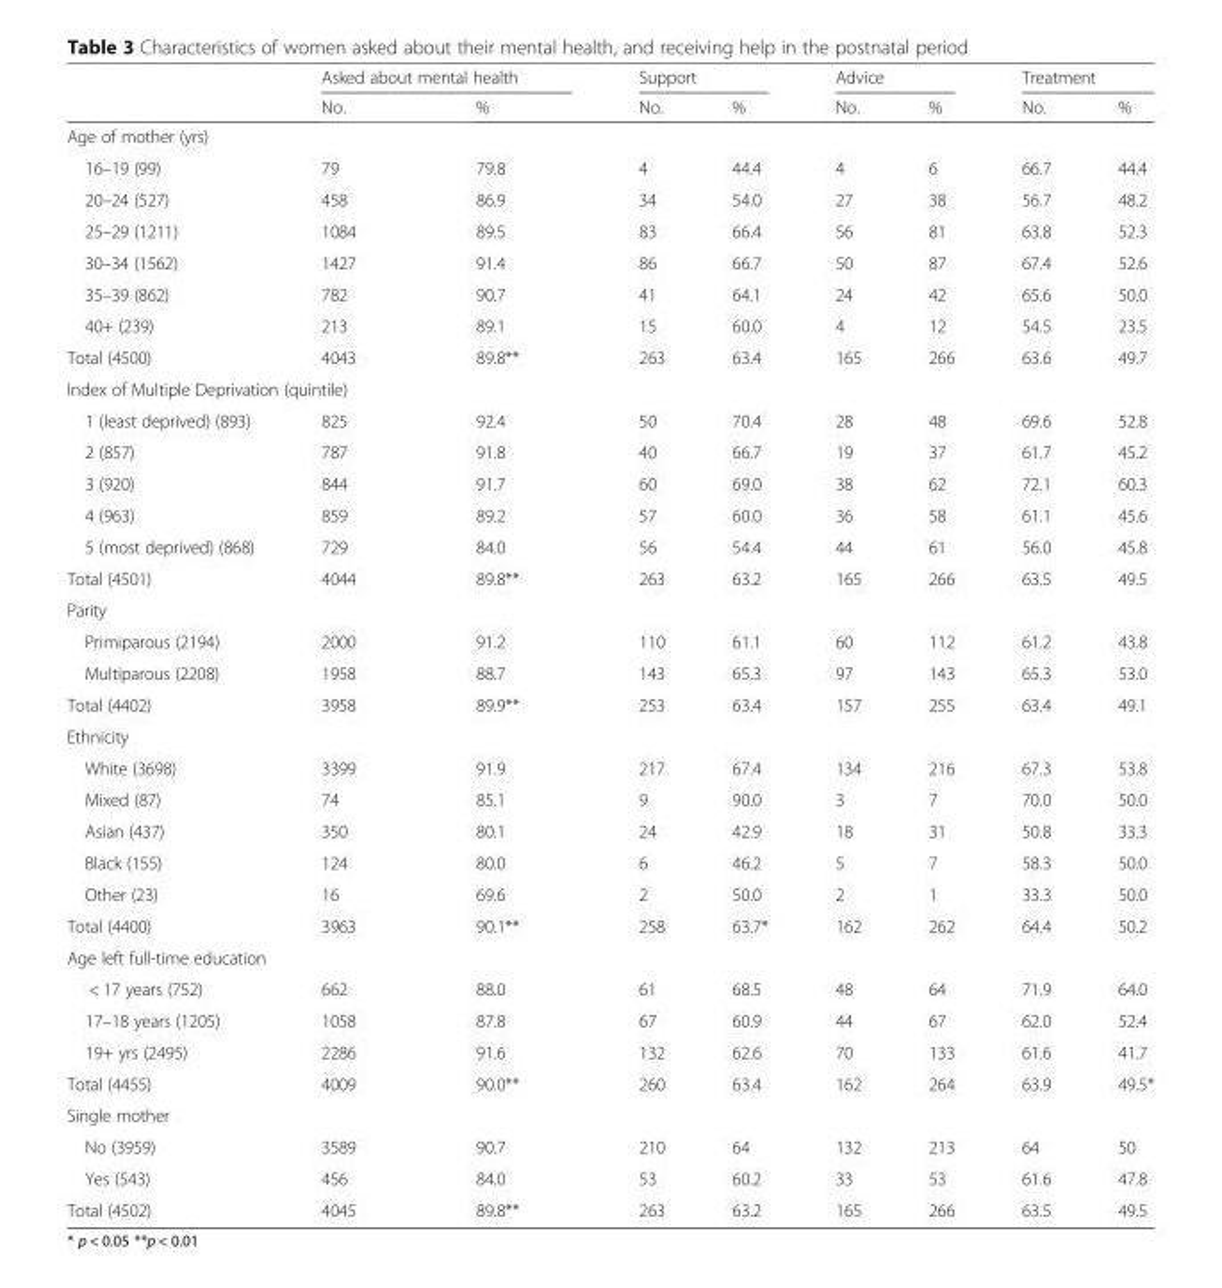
<table><thead><tr><td rowspan="2"></td><td colspan="2">Asked about mental health</td><td colspan="2">Support</td><td colspan="2">Advice</td><td colspan="2">Treatment</td></tr><tr><td>No.</td><td>%</td><td>No.</td><td>%</td><td>No.</td><td>%</td><td>No.</td><td>%</td></tr></thead><tbody><tr><td colspan="9">Age of mother (yrs)</td></tr><tr><td>16–19 (99)</td><td>79</td><td>79.8</td><td>4</td><td>44.4</td><td>4</td><td>6</td><td>66.7</td><td>44.4</td></tr><tr><td>20–24 (527)</td><td>458</td><td>86.9</td><td>34</td><td>54.0</td><td>27</td><td>38</td><td>56.7</td><td>48.2</td></tr><tr><td>25–29 (1211)</td><td>1084</td><td>89.5</td><td>83</td><td>66.4</td><td>56</td><td>81</td><td>63.8</td><td>52.3</td></tr><tr><td>30–34 (1562)</td><td>1427</td><td>91.4</td><td>86</td><td>66.7</td><td>50</td><td>87</td><td>67.4</td><td>52.6</td></tr><tr><td>35–39 (862)</td><td>782</td><td>90.7</td><td>41</td><td>64.1</td><td>24</td><td>42</td><td>65.6</td><td>50.0</td></tr><tr><td>40+ (239)</td><td>213</td><td>89.1</td><td>15</td><td>60.0</td><td>4</td><td>12</td><td>54.5</td><td>23.5</td></tr><tr><td>Total (4500)</td><td>4043</td><td>89.8**</td><td>263</td><td>63.4</td><td>165</td><td>266</td><td>63.6</td><td>49.7</td></tr><tr><td colspan="9">Index of Multiple Deprivation (quintile)</td></tr><tr><td>1 (least deprived) (893)</td><td>825</td><td>92.4</td><td>50</td><td>70.4</td><td>28</td><td>48</td><td>69.6</td><td>52.8</td></tr><tr><td>2 (857)</td><td>787</td><td>91.8</td><td>40</td><td>66.7</td><td>19</td><td>37</td><td>61.7</td><td>45.2</td></tr><tr><td>3 (920)</td><td>844</td><td>91.7</td><td>60</td><td>69.0</td><td>38</td><td>62</td><td>72.1</td><td>60.3</td></tr><tr><td>4 (963)</td><td>859</td><td>89.2</td><td>57</td><td>60.0</td><td>36</td><td>58</td><td>61.1</td><td>45.6</td></tr><tr><td>5 (most deprived) (868)</td><td>729</td><td>84.0</td><td>56</td><td>54.4</td><td>44</td><td>61</td><td>56.0</td><td>45.8</td></tr><tr><td>Total (4501)</td><td>4044</td><td>89.8**</td><td>263</td><td>63.2</td><td>165</td><td>266</td><td>63.5</td><td>49.5</td></tr><tr><td colspan="9">Parity</td></tr><tr><td>Primiparous (2194)</td><td>2000</td><td>91.2</td><td>110</td><td>61.1</td><td>60</td><td>112</td><td>61.2</td><td>43.8</td></tr><tr><td>Multiparous (2208)</td><td>1958</td><td>88.7</td><td>143</td><td>65.3</td><td>97</td><td>143</td><td>65.3</td><td>53.0</td></tr><tr><td>Total (4402)</td><td>3958</td><td>89.9**</td><td>253</td><td>63.4</td><td>157</td><td>255</td><td>63.4</td><td>49.1</td></tr><tr><td colspan="9">Ethnicity</td></tr><tr><td>White (3698)</td><td>3399</td><td>91.9</td><td>217</td><td>67.4</td><td>134</td><td>216</td><td>67.3</td><td>53.8</td></tr><tr><td>Mixed (87)</td><td>74</td><td>85.1</td><td>9</td><td>90.0</td><td>3</td><td>7</td><td>70.0</td><td>50.0</td></tr><tr><td>Asian (437)</td><td>350</td><td>80.1</td><td>24</td><td>42.9</td><td>18</td><td>31</td><td>50.8</td><td>33.3</td></tr><tr><td>Black (155)</td><td>124</td><td>80.0</td><td>6</td><td>46.2</td><td>5</td><td>7</td><td>58.3</td><td>50.0</td></tr><tr><td>Other (23)</td><td>16</td><td>69.6</td><td>2</td><td>50.0</td><td>2</td><td>1</td><td>33.3</td><td>50.0</td></tr><tr><td>Total (4400)</td><td>3963</td><td>90.1**</td><td>258</td><td>63.7*</td><td>162</td><td>262</td><td>64.4</td><td>50.2</td></tr><tr><td colspan="9">Age left full-time education</td></tr><tr><td>&lt; 17 years (752)</td><td>662</td><td>88.0</td><td>61</td><td>68.5</td><td>48</td><td>64</td><td>71.9</td><td>64.0</td></tr><tr><td>17–18 years (1205)</td><td>1058</td><td>87.8</td><td>67</td><td>60.9</td><td>44</td><td>67</td><td>62.0</td><td>52.4</td></tr><tr><td>19+ yrs (2495)</td><td>2286</td><td>91.6</td><td>132</td><td>62.6</td><td>70</td><td>133</td><td>61.6</td><td>41.7</td></tr><tr><td>Total (4455)</td><td>4009</td><td>90.0**</td><td>260</td><td>63.4</td><td>162</td><td>264</td><td>63.9</td><td>49.5*</td></tr><tr><td colspan="9">Single mother</td></tr><tr><td>No (3959)</td><td>3589</td><td>90.7</td><td>210</td><td>64</td><td>132</td><td>213</td><td>64</td><td>50</td></tr><tr><td>Yes (543)</td><td>456</td><td>84.0</td><td>53</td><td>60.2</td><td>33</td><td>53</td><td>61.6</td><td>47.8</td></tr><tr><td>Total (4502)</td><td>4045</td><td>89.8**</td><td>263</td><td>63.2</td><td>165</td><td>266</td><td>63.5</td><td>49.5</td></tr></tbody></table>